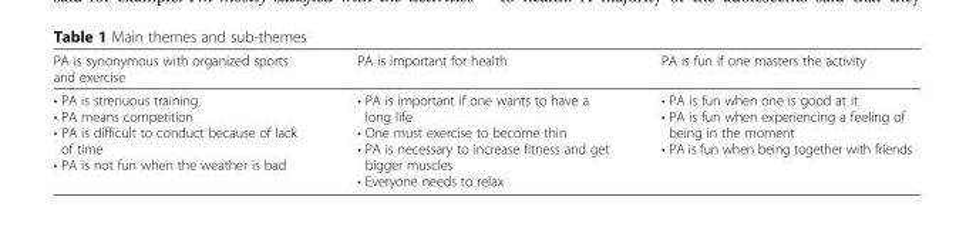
<table><thead><tr><td>PA is synonymous with organized sports and exercise</td><td>PA is important for health</td><td>PA is fun if one masters the activity</td></tr></thead><tbody><tr><td>• PA is strenuous training • PA means competition • PA is difficult to conduct because of lack of time • PA is not fun when the weather is bad</td><td>• PA is important if one wants to have a long life • One must exercise to become thin • PA is necessary to increase fitness and get bigger muscles • Everyone needs to relax</td><td>• PA is fun when one is good at it • PA is fun when experiencing a feeling of being in the moment • PA is fun when being together with friends</td></tr></tbody></table>